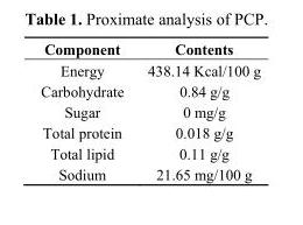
<table><thead><tr><td>Component</td><td>Contents</td></tr></thead><tbody><tr><td>Energy</td><td>438.14 Kcal/100 g</td></tr><tr><td>Carbohydrate</td><td>0.84 g/g</td></tr><tr><td>Sugar</td><td>0 mg/g</td></tr><tr><td>Total protein</td><td>0.018 g/g</td></tr><tr><td>Total lipid</td><td>0.11 g/g</td></tr><tr><td>Sodium</td><td>21.65 mg/100 g</td></tr></tbody></table>